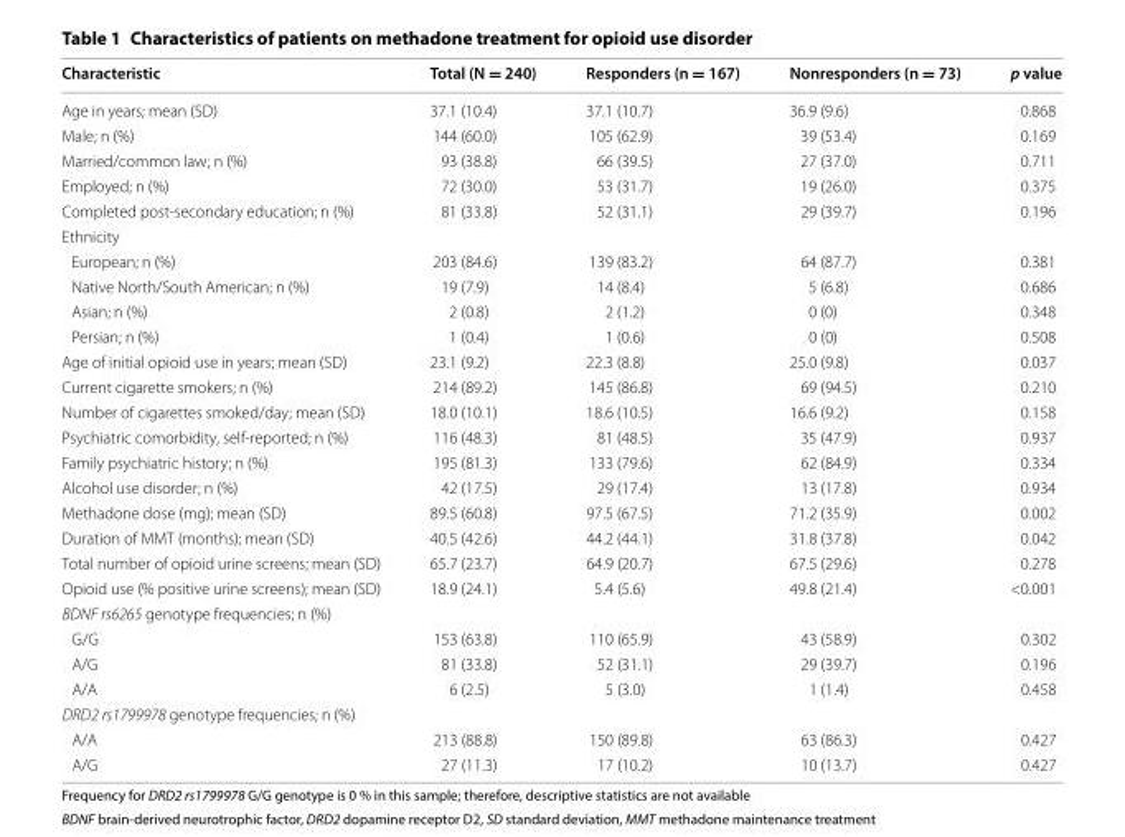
<table><thead><tr><td>Characteristic</td><td>Total (N = 240)</td><td>Responders (n = 167)</td><td>Nonresponders (n = 73)</td><td>p value</td></tr></thead><tbody><tr><td>Age in years; mean (SD)</td><td>37.1 (10.4)</td><td>37.1 (10.7)</td><td>36.9 (9.6)</td><td>0.868</td></tr><tr><td>Male; n (%)</td><td>144 (60.0)</td><td>105 (62.9)</td><td>39 (53.4)</td><td>0.169</td></tr><tr><td>Married/common law; n (%)</td><td>93 (38.8)</td><td>66 (39.5)</td><td>27 (37.0)</td><td>0.711</td></tr><tr><td>Employed; n (%)</td><td>72 (30.0)</td><td>53 (31.7)</td><td>19 (26.0)</td><td>0.375</td></tr><tr><td>Completed post-secondary education; n (%)</td><td>81 (33.8)</td><td>52 (31.1)</td><td>29 (39.7)</td><td>0.196</td></tr><tr><td colspan="5">Ethnicity</td></tr><tr><td>European; n (%)</td><td>203 (84.6)</td><td>139 (83.2)</td><td>64 (87.7)</td><td>0.381</td></tr><tr><td>Native North/South American; n (%)</td><td>19 (7.9)</td><td>14 (8.4)</td><td>5 (6.8)</td><td>0.686</td></tr><tr><td>Asian; n (%)</td><td>2 (0.8)</td><td>2 (1.2)</td><td>0 (0)</td><td>0.348</td></tr><tr><td>Persian; n (%)</td><td>1 (0.4)</td><td>1 (0.6)</td><td>0 (0)</td><td>0.508</td></tr><tr><td>Age of initial opioid use in years; mean (SD)</td><td>23.1 (9.2)</td><td>22.3 (8.8)</td><td>25.0 (9.8)</td><td>0.037</td></tr><tr><td>Current cigarette smokers; n (%)</td><td>214 (89.2)</td><td>145 (86.8)</td><td>69 (94.5)</td><td>0.210</td></tr><tr><td>Number of cigarettes smoked/day; mean (SD)</td><td>18.0 (10.1)</td><td>18.6 (10.5)</td><td>16.6 (9.2)</td><td>0.158</td></tr><tr><td>Psychiatric comorbidity, self-reported; n (%)</td><td>116 (48.3)</td><td>81 (48.5)</td><td>35 (47.9)</td><td>0.937</td></tr><tr><td>Family psychiatric history; n (%)</td><td>195 (81.3)</td><td>133 (79.6)</td><td>62 (84.9)</td><td>0.334</td></tr><tr><td>Alcohol use disorder; n (%)</td><td>42 (17.5)</td><td>29 (17.4)</td><td>13 (17.8)</td><td>0.934</td></tr><tr><td>Methadone dose (mg); mean (SD)</td><td>89.5 (60.8)</td><td>97.5 (67.5)</td><td>71.2 (35.9)</td><td>0.002</td></tr><tr><td>Duration of MMT (months); mean (SD)</td><td>40.5 (42.6)</td><td>44.2 (44.1)</td><td>31.8 (37.8)</td><td>0.042</td></tr><tr><td>Total number of opioid urine screens; mean (SD)</td><td>65.7 (23.7)</td><td>64.9 (20.7)</td><td>67.5 (29.6)</td><td>0.278</td></tr><tr><td>Opioid use (% positive urine screens); mean (SD)</td><td>18.9 (24.1)</td><td>5.4 (5.6)</td><td>49.8 (21.4)</td><td>&lt;0.001</td></tr><tr><td colspan="5">BDNF rs6265 genotype frequencies; n (%)</td></tr><tr><td>G/G</td><td>153 (63.8)</td><td>110 (65.9)</td><td>43 (58.9)</td><td>0.302</td></tr><tr><td>A/G</td><td>81 (33.8)</td><td>52 (31.1)</td><td>29 (39.7)</td><td>0.196</td></tr><tr><td>A/A</td><td>6 (2.5)</td><td>5 (3.0)</td><td>1 (1.4)</td><td>0.458</td></tr><tr><td colspan="5">DRD2 rs1799978 genotype frequencies; n (%)</td></tr><tr><td>A/A</td><td>213 (88.8)</td><td>150 (89.8)</td><td>63 (86.3)</td><td>0.427</td></tr><tr><td>A/G</td><td>27 (11.3)</td><td>17 (10.2)</td><td>10 (13.7)</td><td>0.427</td></tr></tbody></table>